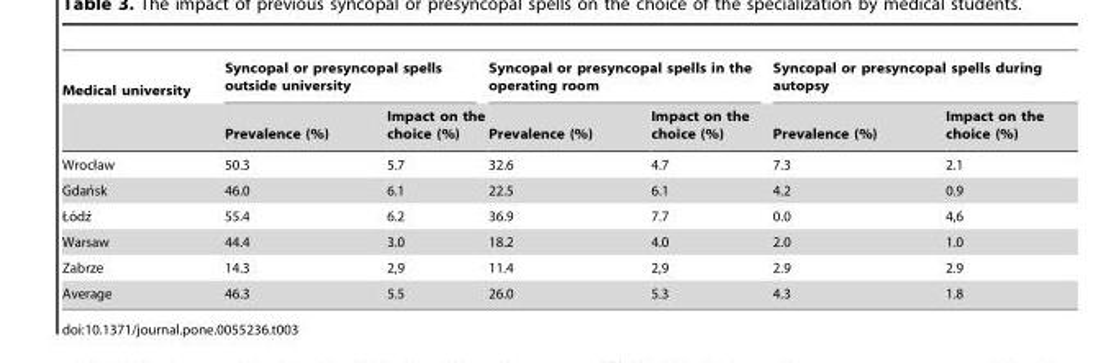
<table><thead><tr><td rowspan="2">Medical university</td><td colspan="2">Syncopal or presyncopal spells outside university</td><td colspan="2">Syncopal or presyncopal spells in the operating room</td><td colspan="2">Syncopal or presyncopal spells during autopsy</td></tr><tr><td>Prevalence (%)</td><td>Impact on the choice (%)</td><td>Prevalence (%)</td><td>Impact on the choice (%)</td><td>Prevalence (%)</td><td>Impact on the choice (%)</td></tr></thead><tbody><tr><td>Wrocław</td><td>50.3</td><td>5.7</td><td>32.6</td><td>4.7</td><td>7.3</td><td>2.1</td></tr><tr><td>Gdan´sk</td><td>46.0</td><td>6.1</td><td>22.5</td><td>6.1</td><td>4.2</td><td>0.9</td></tr><tr><td>Ło´dz´</td><td>55.4</td><td>6.2</td><td>36.9</td><td>7.7</td><td>0.0</td><td>4,6</td></tr><tr><td>Warsaw</td><td>44.4</td><td>3.0</td><td>18.2</td><td>4.0</td><td>2.0</td><td>1.0</td></tr><tr><td>Zabrze</td><td>14.3</td><td>2,9</td><td>11.4</td><td>2,9</td><td>2.9</td><td>2.9</td></tr><tr><td>Average</td><td>46.3</td><td>5.5</td><td>26.0</td><td>5.3</td><td>4.3</td><td>1.8</td></tr></tbody></table>